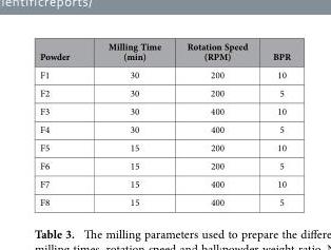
<table><thead><tr><td>Powder</td><td>Milling Time (min)</td><td>Rotation Speed (RPM)</td><td>BPR</td></tr></thead><tbody><tr><td>F1</td><td>30</td><td>200</td><td>10</td></tr><tr><td>F2</td><td>30</td><td>200</td><td>5</td></tr><tr><td>F3</td><td>30</td><td>400</td><td>10</td></tr><tr><td>F4</td><td>30</td><td>400</td><td>5</td></tr><tr><td>F5</td><td>15</td><td>200</td><td>10</td></tr><tr><td>F6</td><td>15</td><td>200</td><td>5</td></tr><tr><td>F7</td><td>15</td><td>400</td><td>10</td></tr><tr><td>F8</td><td>15</td><td>400</td><td>5</td></tr></tbody></table>